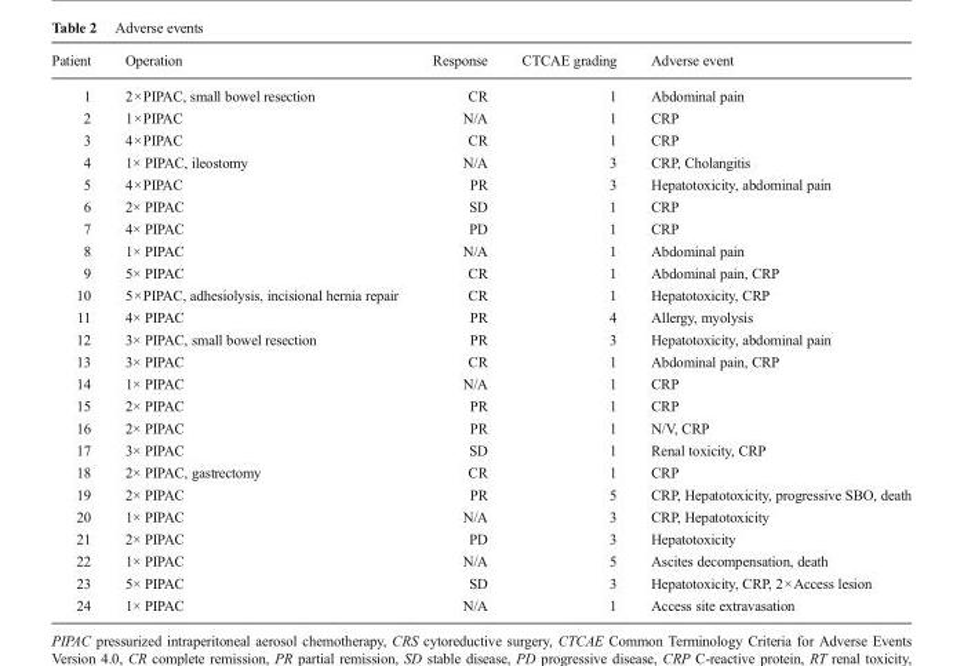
<table><thead><tr><td>Patient</td><td>Operation</td><td>Response</td><td>CTCAE grading</td><td>Adverse event</td></tr></thead><tbody><tr><td>1</td><td>2×PIPAC, small bowel resection</td><td>CR</td><td>1</td><td>Abdominal pain</td></tr><tr><td>2</td><td>1×PIPAC</td><td>N/A</td><td>1</td><td>CRP</td></tr><tr><td>3</td><td>4×PIPAC</td><td>CR</td><td>1</td><td>CRP</td></tr><tr><td>4</td><td>1× PIPAC, ileostomy</td><td>N/A</td><td>3</td><td>CRP, Cholangitis</td></tr><tr><td>5</td><td>4×PIPAC</td><td>PR</td><td>3</td><td>Hepatotoxicity, abdominal pain</td></tr><tr><td>6</td><td>2× PIPAC</td><td>SD</td><td>1</td><td>CRP</td></tr><tr><td>7</td><td>4× PIPAC</td><td>PD</td><td>1</td><td>CRP</td></tr><tr><td>8</td><td>1× PIPAC</td><td>N/A</td><td>1</td><td>Abdominal pain</td></tr><tr><td>9</td><td>5× PIPAC</td><td>CR</td><td>1</td><td>Abdominal pain, CRP</td></tr><tr><td>10</td><td>5×PIPAC, adhesiolysis, incisional hernia repair</td><td>CR</td><td>1</td><td>Hepatotoxicity, CRP</td></tr><tr><td>11</td><td>4× PIPAC</td><td>PR</td><td>4</td><td>Allergy, myolysis</td></tr><tr><td>12</td><td>3× PIPAC, small bowel resection</td><td>PR</td><td>3</td><td>Hepatotoxicity, abdominal pain</td></tr><tr><td>13</td><td>3× PIPAC</td><td>CR</td><td>1</td><td>Abdominal pain, CRP</td></tr><tr><td>14</td><td>1× PIPAC</td><td>N/A</td><td>1</td><td>CRP</td></tr><tr><td>15</td><td>2× PIPAC</td><td>PR</td><td>1</td><td>CRP</td></tr><tr><td>16</td><td>2× PIPAC</td><td>PR</td><td>1</td><td>N/V, CRP</td></tr><tr><td>17</td><td>3× PIPAC</td><td>SD</td><td>1</td><td>Renal toxicity, CRP</td></tr><tr><td>18</td><td>2× PIPAC, gastrectomy</td><td>CR</td><td>1</td><td>CRP</td></tr><tr><td>19</td><td>2× PIPAC</td><td>PR</td><td>5</td><td>CRP, Hepatotoxicity, progressive SBO, death</td></tr><tr><td>20</td><td>1× PIPAC</td><td>N/A</td><td>3</td><td>CRP, Hepatotoxicity</td></tr><tr><td>21</td><td>2× PIPAC</td><td>PD</td><td>3</td><td>Hepatotoxicity</td></tr><tr><td>22</td><td>1× PIPAC</td><td>N/A</td><td>5</td><td>Ascites decompensation, death</td></tr><tr><td>23</td><td>5× PIPAC</td><td>SD</td><td>3</td><td>Hepatotoxicity, CRP, 2×Access lesion</td></tr><tr><td>24</td><td>1× PIPAC</td><td>N/A</td><td>1</td><td>Access site extravasation</td></tr></tbody></table>